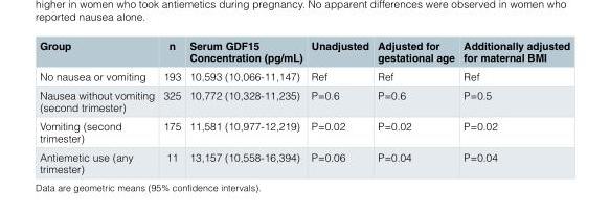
<table><thead><tr><td>Group</td><td>n</td><td>Serum GDF15 Concentration (pg/mL)</td><td>Unadjusted</td><td>Adjusted for gestational age</td><td>Additionally adjusted for maternal BMI</td></tr></thead><tbody><tr><td>No nausea or vomiting</td><td>193</td><td>10,593 (10,066-11,147)</td><td>Ref</td><td>Ref</td><td>Ref</td></tr><tr><td>Nausea without vomiting (second trimester)</td><td>325</td><td>10,772 (10,328-11,235)</td><td>P=0.6</td><td>P=0.6</td><td>P=0.5</td></tr><tr><td>Vomiting (second trimester)</td><td>175</td><td>11,581 (10,977-12,219)</td><td>P=0.02</td><td>P=0.02</td><td>P=0.02</td></tr><tr><td>Antiemetic use (any trimester)</td><td>11</td><td>13,157 (10,558-16,394)</td><td>P=0.06</td><td>P=0.04</td><td>P=0.04</td></tr></tbody></table>